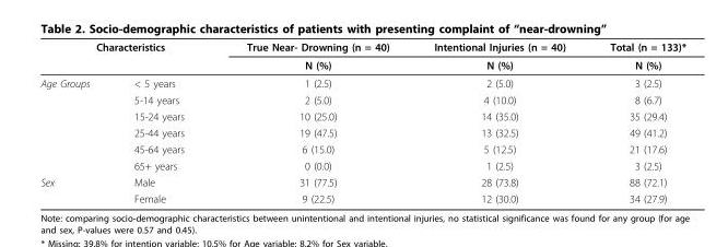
<table><thead><tr><td colspan="2">Characteristics</td><td rowspan="2">True Near- Drowning (n = 40) N (%)</td><td rowspan="2">Intentional Injuries (n = 40) N (%)</td><td rowspan="2">Total (n = 133)* N (%)</td></tr><tr><td></td><td></td></tr></thead><tbody><tr><td rowspan="6">Age Groups</td><td>&lt; 5 years</td><td>1 (2.5)</td><td>2 (5.0)</td><td>3 (2.5)</td></tr><tr><td>5-14 years</td><td>2 (5.0)</td><td>4 (10.0)</td><td>8 (6.7)</td></tr><tr><td>15-24 years</td><td>10 (25.0)</td><td>14 (35.0)</td><td>35 (29.4)</td></tr><tr><td>25-44 years</td><td>19 (47.5)</td><td>13 (32.5)</td><td>49 (41.2)</td></tr><tr><td>45-64 years</td><td>6 (15.0)</td><td>5 (12.5)</td><td>21 (17.6)</td></tr><tr><td>65+ years</td><td>0 (0.0)</td><td>1 (2.5)</td><td>3 (2.5)</td></tr><tr><td rowspan="2">Sex</td><td>Male</td><td>31 (77.5)</td><td>28 (73.8)</td><td>88 (72.1)</td></tr><tr><td>Female</td><td>9 (22.5)</td><td>12 (30.0)</td><td>34 (27.9)</td></tr></tbody></table>